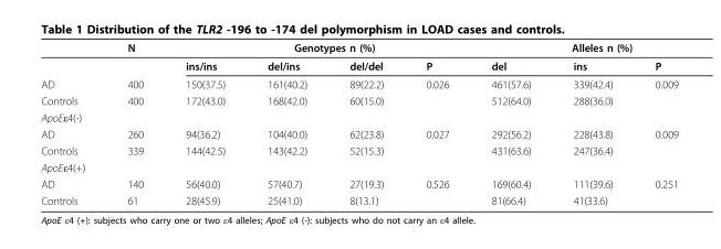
<table><thead><tr><td rowspan="2"></td><td rowspan="2">N</td><td colspan="4">Genotypes n (%)</td><td colspan="3">Alleles n (%)</td></tr><tr><td>ins/ins</td><td>del/ins</td><td>del/del</td><td>P</td><td>del</td><td>ins</td><td>P</td></tr></thead><tbody><tr><td>AD</td><td>400</td><td>150(37.5)</td><td>161(40.2)</td><td>89(22.2)</td><td>0.026</td><td>461(57.6)</td><td>339(42.4)</td><td>0.009</td></tr><tr><td>Controls</td><td>400</td><td>172(43.0)</td><td>168(42.0)</td><td>60(15.0)</td><td></td><td>512(64.0)</td><td>288(36.0)</td><td></td></tr><tr><td colspan="9">ApoEε4(-)</td></tr><tr><td>AD</td><td>260</td><td>94(36.2)</td><td>104(40.0)</td><td>62(23.8)</td><td>0.027</td><td>292(56.2)</td><td>228(43.8)</td><td>0.009</td></tr><tr><td>Controls</td><td>339</td><td>144(42.5)</td><td>143(42.2)</td><td>52(15.3)</td><td></td><td>431(63.6)</td><td>247(36.4)</td><td></td></tr><tr><td colspan="9">ApoEε4(+)</td></tr><tr><td>AD</td><td>140</td><td>56(40.0)</td><td>57(40.7)</td><td>27(19.3)</td><td>0.526</td><td>169(60.4)</td><td>111(39.6)</td><td>0.251</td></tr><tr><td>Controls</td><td>61</td><td>28(45.9)</td><td>25(41.0)</td><td>8(13.1)</td><td></td><td>81(66.4)</td><td>41(33.6)</td><td></td></tr></tbody></table>